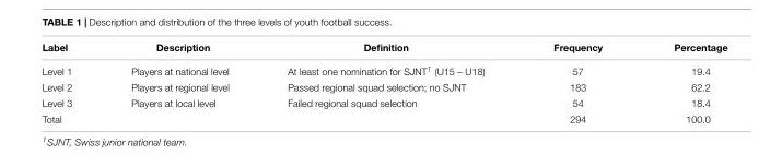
<table><thead><tr><td>Label</td><td>Description</td><td>Definition</td><td>Frequency</td><td>Percentage</td></tr></thead><tbody><tr><td>Level 1</td><td>Players at national level</td><td>At least one nomination for SJNT<sup>1</sup> (U15 – U18)</td><td>57</td><td>19.4</td></tr><tr><td>Level 2</td><td>Players at regional level</td><td>Passed regional squad selection; no SJNT</td><td>183</td><td>62.2</td></tr><tr><td>Level 3</td><td>Players at local level</td><td>Failed regional squad selection</td><td>54</td><td>18.4</td></tr><tr><td>Total</td><td></td><td></td><td>294</td><td>100.0</td></tr></tbody></table>